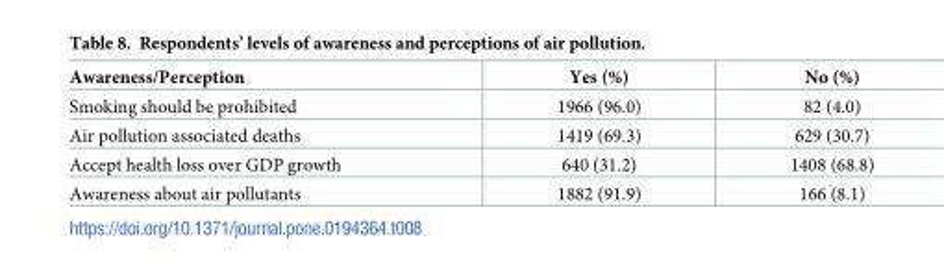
<table><thead><tr><td>Awareness/Perception</td><td>Yes (%)</td><td>No (%)</td></tr></thead><tbody><tr><td>Smoking should be prohibited</td><td>1966 (96.0)</td><td>82 (4.0)</td></tr><tr><td>Air pollution associated deaths</td><td>1419 (69.3)</td><td>629 (30.7)</td></tr><tr><td>Accept health loss over GDP growth</td><td>640 (31.2)</td><td>1408 (68.8)</td></tr><tr><td>Awareness about air pollutants</td><td>1882 (91.9)</td><td>166 (8.1)</td></tr></tbody></table>